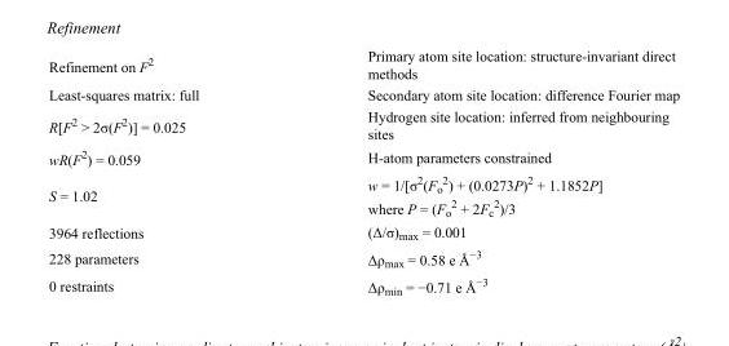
<table><tbody><tr><td>Refinement on F<sup>2</sup></td><td>Primary atom site location: structure-invariant direct methods</td></tr><tr><td>Least-squares matrix: full</td><td>Secondary atom site location: difference Fourier map</td></tr><tr><td>R[F<sup>2</sup> &gt; 2σ(F<sup>2</sup>)] = 0.025</td><td>Hydrogen site location: inferred from neighbouring sites</td></tr><tr><td>wR(F<sup>2</sup>) = 0.059</td><td>H-atom parameters constrained</td></tr><tr><td>S = 1.02</td><td>w = 1/[σ<sup>2</sup>(F<sub>o</sub> <sup>2</sup>) + (0.0273P)<sup>2</sup> + 1.1852P] where P = (F<sub>o</sub> <sup>2</sup> + 2F<sub>c</sub> <sup>2</sup>)/3</td></tr><tr><td>3964 reflections</td><td>(Δ/σ)<sub>max</sub> = 0.001</td></tr><tr><td>228 parameters</td><td>Δρ<sub>max</sub> = 0.58 e Å<sup>−3</sup></td></tr><tr><td>0 restraints</td><td>Δρ<sub>min</sub> = −0.71 e Å<sup>−3</sup></td></tr></tbody></table>